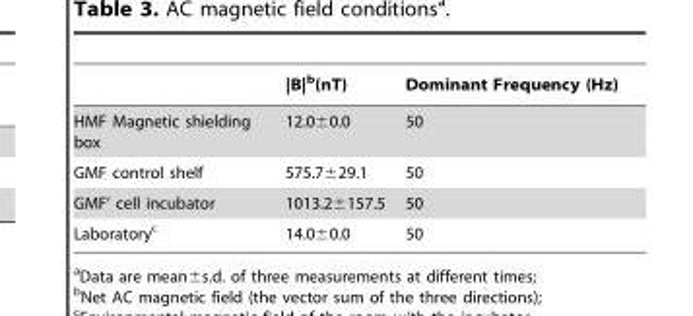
<table><thead><tr><td></td><td>|B|<sup>b</sup>(nT)</td><td>Dominant Frequency (Hz)</td></tr></thead><tbody><tr><td>HMF Magnetic shielding box</td><td>12.0±0.0</td><td>50</td></tr><tr><td>GMF control shelf</td><td>575.7±29.1</td><td>50</td></tr><tr><td>GMF’ cell incubator</td><td>1013.2±157.5</td><td>50</td></tr><tr><td>Laboratory<sup>c</sup></td><td>14.0±0.0</td><td>50</td></tr></tbody></table>